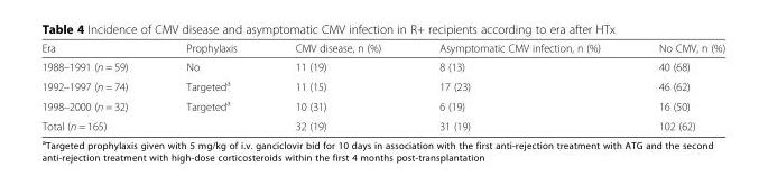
<table><thead><tr><td>Era</td><td>Prophylaxis</td><td>CMV disease, n (%)</td><td>Asymptomatic CMV infection, n (%)</td><td>No CMV, n (%)</td></tr></thead><tbody><tr><td>1988–1991 (n = 59)</td><td>No</td><td>11 (19)</td><td>8 (13)</td><td>40 (68)</td></tr><tr><td>1992–1997 (n = 74)</td><td>Targeted<sup>a</sup></td><td>11 (15)</td><td>17 (23)</td><td>46 (62)</td></tr><tr><td>1998–2000 (n = 32)</td><td>Targeted<sup>a</sup></td><td>10 (31)</td><td>6 (19)</td><td>16 (50)</td></tr><tr><td>Total (n = 165)</td><td></td><td>32 (19)</td><td>31 (19)</td><td>102 (62)</td></tr></tbody></table>